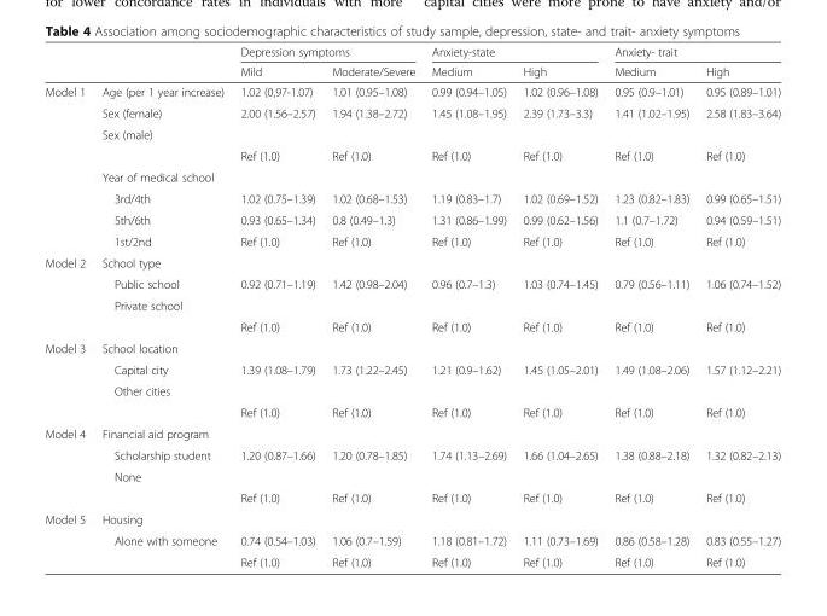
<table><thead><tr><td rowspan="2"></td><td rowspan="2"></td><td colspan="2">Depression symptoms</td><td colspan="2">Anxiety-state</td><td colspan="2">Anxiety- trait</td></tr><tr><td>Mild</td><td>Moderate/Severe</td><td>Medium</td><td>High</td><td>Medium</td><td>High</td></tr></thead><tbody><tr><td rowspan="8">Model 1</td><td>Age (per 1 year increase)</td><td>1.02 (0,97-1.07)</td><td>1.01 (0.95–1.08)</td><td>0.99 (0.94–1.05)</td><td>1.02 (0.96–1.08)</td><td>0.95 (0.9–1.01)</td><td>0.95 (0.89–1.01)</td></tr><tr><td>Sex (female)</td><td rowspan="2">2.00 (1.56–2.57)</td><td rowspan="2">1.94 (1.38–2.72)</td><td rowspan="2">1.45 (1.08–1.95)</td><td rowspan="2">2.39 (1.73–3.3)</td><td rowspan="2">1.41 (1.02–1.95)</td><td rowspan="2">2.58 (1.83–3.64)</td></tr><tr><td>Sex (male)</td></tr><tr><td></td><td>Ref (1.0)</td><td>Ref (1.0)</td><td>Ref (1.0)</td><td>Ref (1.0)</td><td>Ref (1.0)</td><td>Ref (1.0)</td></tr><tr><td colspan="7">Year of medical school</td></tr><tr><td>3rd/4th</td><td>1.02 (0.75–1.39)</td><td>1.02 (0.68–1.53)</td><td>1.19 (0.83–1.7)</td><td>1.02 (0.69–1.52)</td><td>1.23 (0.82–1.83)</td><td>0.99 (0.65–1.51)</td></tr><tr><td>5th/6th</td><td>0.93 (0.65–1.34)</td><td>0.8 (0.49–1.3)</td><td>1.31 (0.86–1.99)</td><td>0.99 (0.62–1.56)</td><td>1.1 (0.7–1.72)</td><td>0.94 (0.59–1.51)</td></tr><tr><td>1st/2nd</td><td>Ref (1.0)</td><td>Ref (1.0)</td><td>Ref (1.0)</td><td>Ref (1.0)</td><td>Ref (1.0)</td><td>Ref (1.0)</td></tr><tr><td rowspan="4">Model 2</td><td colspan="7">School type</td></tr><tr><td>Public school</td><td rowspan="2">0.92 (0.71–1.19)</td><td rowspan="2">1.42 (0.98–2.04)</td><td rowspan="2">0.96 (0.7–1.3)</td><td rowspan="2">1.03 (0.74–1.45)</td><td rowspan="2">0.79 (0.56–1.11)</td><td rowspan="2">1.06 (0.74–1.52)</td></tr><tr><td>Private school</td></tr><tr><td></td><td>Ref (1.0)</td><td>Ref (1.0)</td><td>Ref (1.0)</td><td>Ref (1.0)</td><td>Ref (1.0)</td><td>Ref (1.0)</td></tr><tr><td rowspan="4">Model 3</td><td colspan="7">School location</td></tr><tr><td>Capital city</td><td rowspan="2">1.39 (1.08–1.79)</td><td rowspan="2">1.73 (1.22–2.45)</td><td rowspan="2">1.21 (0.9–1.62)</td><td rowspan="2">1.45 (1.05–2.01)</td><td rowspan="2">1.49 (1.08–2.06)</td><td rowspan="2">1.57 (1.12–2.21)</td></tr><tr><td>Other cities</td></tr><tr><td></td><td>Ref (1.0)</td><td>Ref (1.0)</td><td>Ref (1.0)</td><td>Ref (1.0)</td><td>Ref (1.0)</td><td>Ref (1.0)</td></tr><tr><td rowspan="4">Model 4</td><td colspan="7">Financial aid program</td></tr><tr><td>Scholarship student</td><td rowspan="2">1.20 (0.87–1.66)</td><td rowspan="2">1.20 (0.78–1.85)</td><td rowspan="2">1.74 (1.13–2.69)</td><td rowspan="2">1.66 (1.04–2.65)</td><td rowspan="2">1.38 (0.88–2.18)</td><td rowspan="2">1.32 (0.82–2.13)</td></tr><tr><td>None</td></tr><tr><td></td><td>Ref (1.0)</td><td>Ref (1.0)</td><td>Ref (1.0)</td><td>Ref (1.0)</td><td>Ref (1.0)</td><td>Ref (1.0)</td></tr><tr><td rowspan="3">Model 5</td><td colspan="7">Housing</td></tr><tr><td>Alone with someone</td><td>0.74 (0.54–1.03)</td><td>1.06 (0.7–1.59)</td><td>1.18 (0.81–1.72)</td><td>1.11 (0.73–1.69)</td><td>0.86 (0.58–1.28)</td><td>0.83 (0.55–1.27)</td></tr><tr><td></td><td>Ref (1.0)</td><td>Ref (1.0)</td><td>Ref (1.0)</td><td>Ref (1.0)</td><td>Ref (1.0)</td><td>Ref (1.0)</td></tr></tbody></table>